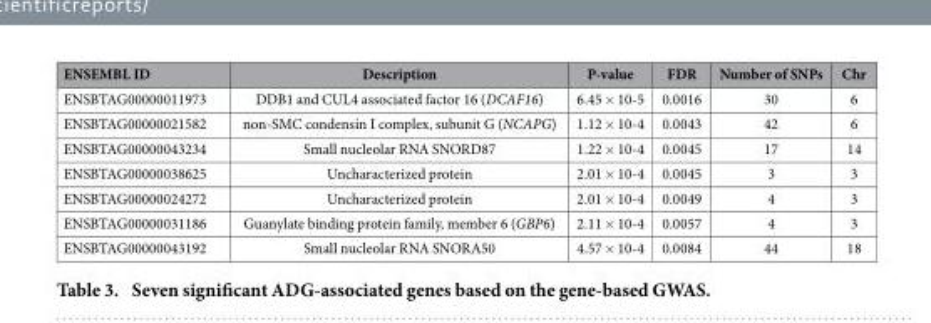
<table><thead><tr><td>ENSEMBL ID</td><td>Description</td><td>P-value</td><td>FDR</td><td>Number of SNPs</td><td>Chr</td></tr></thead><tbody><tr><td>ENSBTAG00000011973</td><td>DDB1 and CUL4 associated factor 16 (DCAF16)</td><td>6.45 × 10-5</td><td>0.0016</td><td>30</td><td>6</td></tr><tr><td>ENSBTAG00000021582</td><td>non-SMC condensin I complex, subunit G (NCAPG)</td><td>1.12 × 10-4</td><td>0.0043</td><td>42</td><td>6</td></tr><tr><td>ENSBTAG00000043234</td><td>Small nucleolar RNA SNORD87</td><td>1.22 × 10-4</td><td>0.0045</td><td>17</td><td>14</td></tr><tr><td>ENSBTAG00000038625</td><td>Uncharacterized protein</td><td>2.01 × 10-4</td><td>0.0045</td><td>3</td><td>3</td></tr><tr><td>ENSBTAG00000024272</td><td>Uncharacterized protein</td><td>2.01 × 10-4</td><td>0.0049</td><td>4</td><td>3</td></tr><tr><td>ENSBTAG00000031186</td><td>Guanylate binding protein family, member 6 (GBP6)</td><td>2.11 × 10-4</td><td>0.0057</td><td>4</td><td>3</td></tr><tr><td>ENSBTAG00000043192</td><td>Small nucleolar RNA SNORA50</td><td>4.57 × 10-4</td><td>0.0084</td><td>44</td><td>18</td></tr></tbody></table>